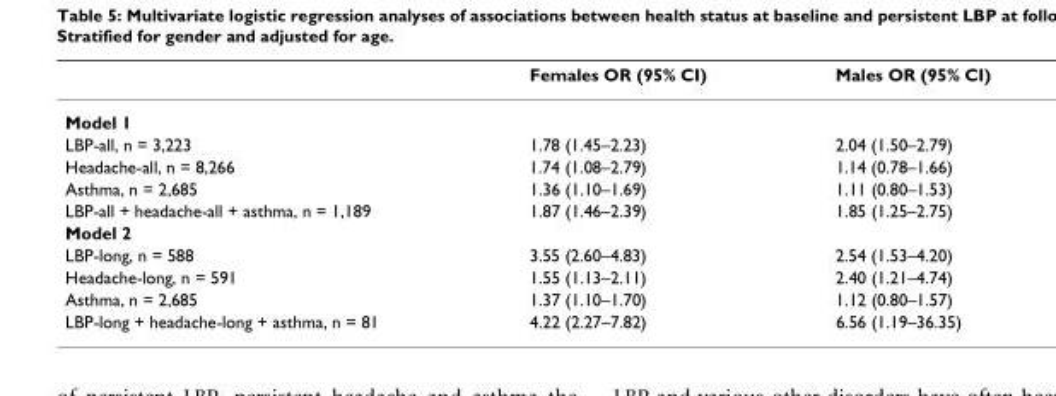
<table><thead><tr><td></td><td>Females OR (95% CI)</td><td>Males OR (95% CI)</td></tr></thead><tbody><tr><td colspan="3">Model 1</td></tr><tr><td>LBP-all, n = 3,223</td><td>1.78 (1.45–2.23)</td><td>2.04 (1.50–2.79)</td></tr><tr><td>Headache-all, n = 8,266</td><td>1.74 (1.08–2.79)</td><td>1.14 (0.78–1.66)</td></tr><tr><td>Asthma, n = 2,685</td><td>1.36 (1.10–1.69)</td><td>1.11 (0.80–1.53)</td></tr><tr><td>LBP-all + headache-all + asthma, n = 1,189</td><td>1.87 (1.46–2.39)</td><td>1.85 (1.25–2.75)</td></tr><tr><td colspan="3">Model 2</td></tr><tr><td>LBP-long, n = 588</td><td>3.55 (2.60–4.83)</td><td>2.54 (1.53–4.20)</td></tr><tr><td>Headache-long, n = 591</td><td>1.55 (1.13–2.11)</td><td>2.40 (1.21–4.74)</td></tr><tr><td>Asthma, n = 2,685</td><td>1.37 (1.10–1.70)</td><td>1.12 (0.80–1.57)</td></tr><tr><td>LBP-long + headache-long + asthma, n = 81</td><td>4.22 (2.27–7.82)</td><td>6.56 (1.19–36.35)</td></tr></tbody></table>